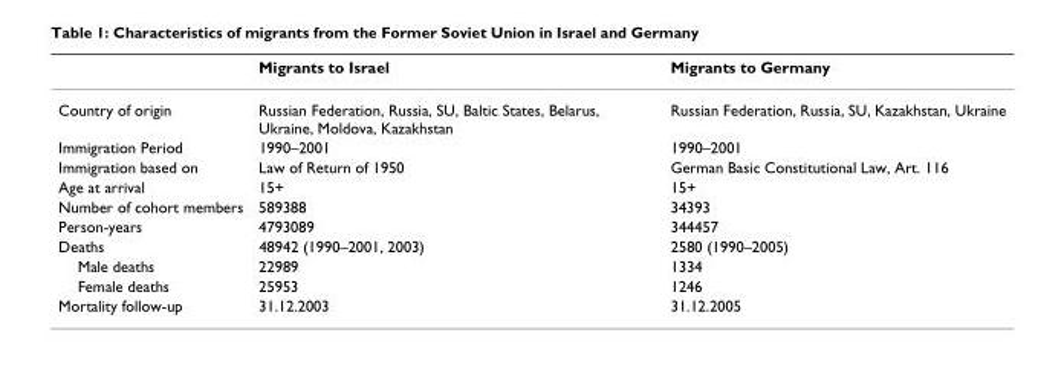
<table><thead><tr><td></td><td>Migrants to Israel</td><td>Migrants to Germany</td></tr></thead><tbody><tr><td>Country of origin</td><td>Russian Federation, Russia, SU, Baltic States, Belarus, Ukraine, Moldova, Kazakhstan</td><td>Russian Federation, Russia, SU, Kazakhstan, Ukraine</td></tr><tr><td>Immigration Period</td><td>1990–2001</td><td>1990–2001</td></tr><tr><td>Immigration based on</td><td>Law of Return of 1950</td><td>German Basic Constitutional Law, Art. 116</td></tr><tr><td>Age at arrival</td><td>15+</td><td>15+</td></tr><tr><td>Number of cohort members</td><td>589388</td><td>34393</td></tr><tr><td>Person-years</td><td>4793089</td><td>344457</td></tr><tr><td>Deaths</td><td>48942 (1990–2001, 2003)</td><td>2580 (1990–2005)</td></tr><tr><td>Male deaths</td><td>22989</td><td>1334</td></tr><tr><td>Female deaths</td><td>25953</td><td>1246</td></tr><tr><td>Mortality follow-up</td><td>31.12.2003</td><td>31.12.2005</td></tr></tbody></table>